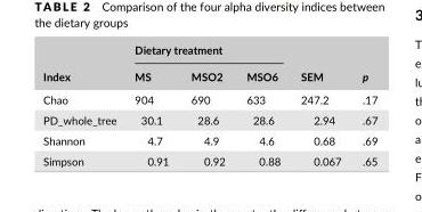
<table><thead><tr><td rowspan="2">Index</td><td colspan="3">Dietary treatment</td><td rowspan="2">SEM</td><td rowspan="2">p</td></tr><tr><td>MS</td><td>MSO2</td><td>MSO6</td></tr></thead><tbody><tr><td>Chao</td><td>904</td><td>690</td><td>633</td><td>247.2</td><td>.17</td></tr><tr><td>PD_whole_tree</td><td>30.1</td><td>28.6</td><td>28.6</td><td>2.94</td><td>.67</td></tr><tr><td>Shannon</td><td>4.7</td><td>4.9</td><td>4.6</td><td>0.68</td><td>.69</td></tr><tr><td>Simpson</td><td>0.91</td><td>0.92</td><td>0.88</td><td>0.067</td><td>.65</td></tr></tbody></table>